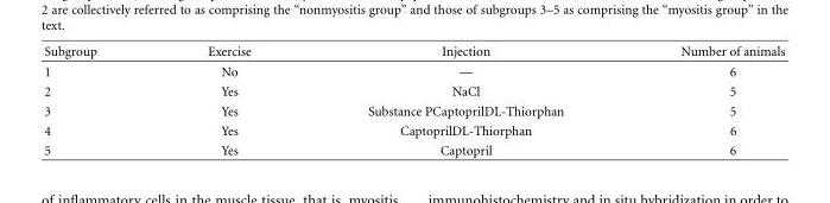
<table><thead><tr><td>Subgroup</td><td>Exercise</td><td>Injection</td><td>Number of animals</td></tr></thead><tbody><tr><td>1</td><td>No</td><td>—</td><td>6</td></tr><tr><td>2</td><td>Yes</td><td>NaCl</td><td>5</td></tr><tr><td>3</td><td>Yes</td><td>Substance PCaptoprilDL-Thiorphan</td><td>5</td></tr><tr><td>4</td><td>Yes</td><td>CaptoprilDL-Thiorphan</td><td>6</td></tr><tr><td>5</td><td>Yes</td><td>Captopril</td><td>6</td></tr></tbody></table>